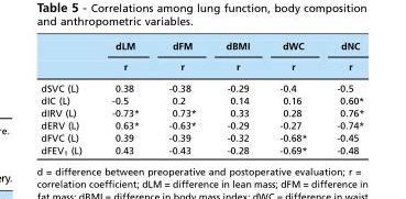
<table><thead><tr><td rowspan="2"></td><td rowspan="2">dLM r</td><td rowspan="2">dFM r</td><td rowspan="2">dBMI r</td><td rowspan="2">dWC r</td><td rowspan="2">dNC r</td></tr><tr></tr></thead><tbody><tr><td>dSVC (L)</td><td>0.38</td><td>-0.38</td><td>-0.29</td><td>-0.4</td><td>-0.5</td></tr><tr><td>dIC (L)</td><td>-0.5</td><td>0.2</td><td>0.14</td><td>0.16</td><td>0.60*</td></tr><tr><td>dIRV (L)</td><td>-0.73*</td><td>0.73*</td><td>0.33</td><td>0.28</td><td>0.76*</td></tr><tr><td>dERV (L)</td><td>0.63*</td><td>-0.63*</td><td>-0.29</td><td>-0.27</td><td>-0.74*</td></tr><tr><td>dFVC (L)</td><td>0.39</td><td>-0.39</td><td>-0.32</td><td>-0.68*</td><td>-0.45</td></tr><tr><td>dFEV<sub>1</sub> (L)</td><td>0.43</td><td>-0.43</td><td>-0.28</td><td>-0.69*</td><td>-0.48</td></tr></tbody></table>